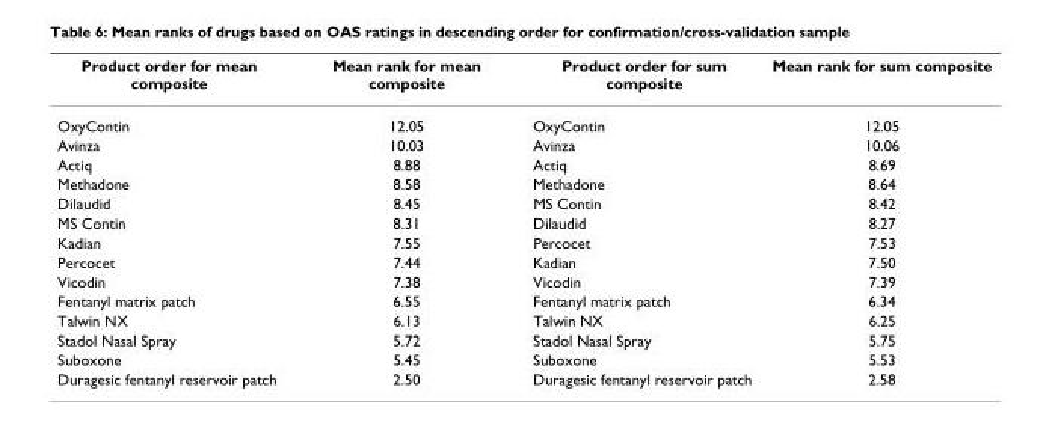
<table><thead><tr><td>Product order for mean composite</td><td>Mean rank for mean composite</td><td>Product order for sum composite</td><td>Mean rank for sum composite</td></tr></thead><tbody><tr><td>OxyContin</td><td>12.05</td><td>OxyContin</td><td>12.05</td></tr><tr><td>Avinza</td><td>10.03</td><td>Avinza</td><td>10.06</td></tr><tr><td>Actiq</td><td>8.88</td><td>Actiq</td><td>8.69</td></tr><tr><td>Methadone</td><td>8.58</td><td>Methadone</td><td>8.64</td></tr><tr><td>Dilaudid</td><td>8.45</td><td>MS Contin</td><td>8.42</td></tr><tr><td>MS Contin</td><td>8.31</td><td>Dilaudid</td><td>8.27</td></tr><tr><td>Kadian</td><td>7.55</td><td>Percocet</td><td>7.53</td></tr><tr><td>Percocet</td><td>7.44</td><td>Kadian</td><td>7.50</td></tr><tr><td>Vicodin</td><td>7.38</td><td>Vicodin</td><td>7.39</td></tr><tr><td>Fentanyl matrix patch</td><td>6.55</td><td>Fentanyl matrix patch</td><td>6.34</td></tr><tr><td>Talwin NX</td><td>6.13</td><td>Talwin NX</td><td>6.25</td></tr><tr><td>Stadol Nasal Spray</td><td>5.72</td><td>Stadol Nasal Spray</td><td>5.75</td></tr><tr><td>Suboxone</td><td>5.45</td><td>Suboxone</td><td>5.53</td></tr><tr><td>Duragesic fentanyl reservoir patch</td><td>2.50</td><td>Duragesic fentanyl reservoir patch</td><td>2.58</td></tr></tbody></table>